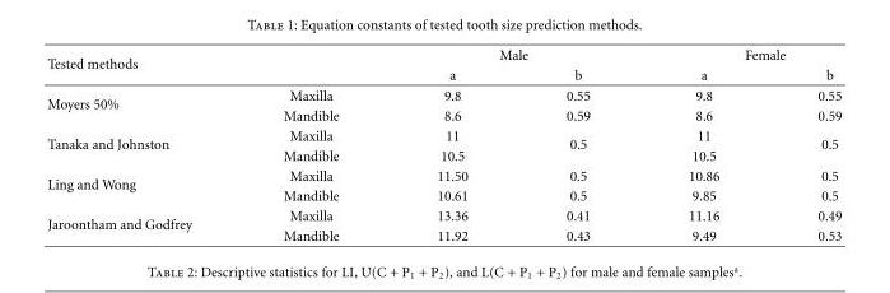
<table><thead><tr><td rowspan="2">Tested methods</td><td rowspan="2"></td><td colspan="2">Male</td><td colspan="2">Female</td></tr><tr><td>a</td><td>b</td><td>a</td><td>b</td></tr></thead><tbody><tr><td rowspan="2">Moyers 50%</td><td>Maxilla</td><td>9.8</td><td>0.55</td><td>9.8</td><td>0.55</td></tr><tr><td>Mandible</td><td>8.6</td><td>0.59</td><td>8.6</td><td>0.59</td></tr><tr><td rowspan="2">Tanaka and Johnston</td><td>Maxilla</td><td>11</td><td rowspan="2">0.5</td><td>11</td><td rowspan="2">0.5</td></tr><tr><td>Mandible</td><td>10.5</td><td>10.5</td></tr><tr><td rowspan="2">Ling and Wong</td><td>Maxilla</td><td>11.50</td><td>0.5</td><td>10.86</td><td>0.5</td></tr><tr><td>Mandible</td><td>10.61</td><td>0.5</td><td>9.85</td><td>0.5</td></tr><tr><td rowspan="2">Jaroontham and Godfrey</td><td>Maxilla</td><td>13.36</td><td>0.41</td><td>11.16</td><td>0.49</td></tr><tr><td>Mandible</td><td>11.92</td><td>0.43</td><td>9.49</td><td>0.53</td></tr></tbody></table>